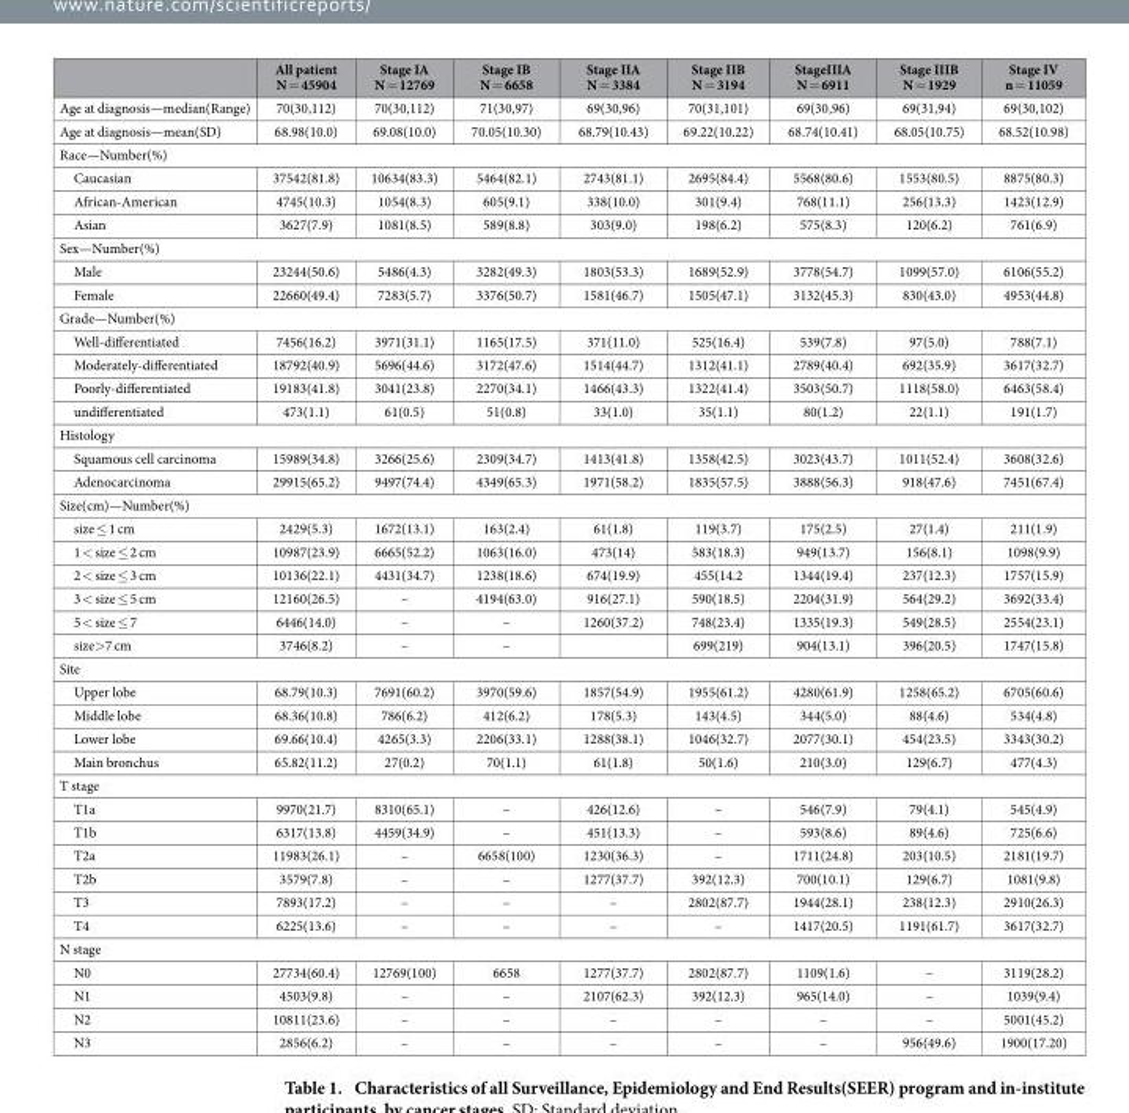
<table><thead><tr><td></td><td>All patient N = 45904</td><td>Stage IA N = 12769</td><td>Stage IB N = 6658</td><td>Stage IIA N = 3384</td><td>Stage IIB N = 3194</td><td>StageIIIA N = 6911</td><td>Stage IIIB N = 1929</td><td>Stage IV n = 11059</td></tr></thead><tbody><tr><td>Age at diagnosis—median(Range)</td><td>70(30,112)</td><td>70(30,112)</td><td>71(30,97)</td><td>69(30,96)</td><td>70(31,101)</td><td>69(30,96)</td><td>69(31,94)</td><td>69(30,102)</td></tr><tr><td>Age at diagnosis—mean(SD)</td><td>68.98(10.0)</td><td>69.08(10.0)</td><td>70.05(10.30)</td><td>68.79(10.43)</td><td>69.22(10.22)</td><td>68.74(10.41)</td><td>68.05(10.75)</td><td>68.52(10.98)</td></tr><tr><td colspan="9">Race—Number(%)</td></tr><tr><td>Caucasian</td><td>37542(81.8)</td><td>10634(83.3)</td><td>5464(82.1)</td><td>2743(81.1)</td><td>2695(84.4)</td><td>5568(80.6)</td><td>1553(80.5)</td><td>8875(80.3)</td></tr><tr><td>African-American</td><td>4745(10.3)</td><td>1054(8.3)</td><td>605(9.1)</td><td>338(10.0)</td><td>301(9.4)</td><td>768(11.1)</td><td>256(13.3)</td><td>1423(12.9)</td></tr><tr><td>Asian</td><td>3627(7.9)</td><td>1081(8.5)</td><td>589(8.8)</td><td>303(9.0)</td><td>198(6.2)</td><td>575(8.3)</td><td>120(6.2)</td><td>761(6.9)</td></tr><tr><td colspan="9">Sex—Number(%)</td></tr><tr><td>Male</td><td>23244(50.6)</td><td>5486(4.3)</td><td>3282(49.3)</td><td>1803(53.3)</td><td>1689(52.9)</td><td>3778(54.7)</td><td>1099(57.0)</td><td>6106(55.2)</td></tr><tr><td>Female</td><td>22660(49.4)</td><td>7283(5.7)</td><td>3376(50.7)</td><td>1581(46.7)</td><td>1505(47.1)</td><td>3132(45.3)</td><td>830(43.0)</td><td>4953(44.8)</td></tr><tr><td colspan="9">Grade—Number(%)</td></tr><tr><td>Well-differentiated</td><td>7456(16.2)</td><td>3971(31.1)</td><td>1165(17.5)</td><td>371(11.0)</td><td>525(16.4)</td><td>539(7.8)</td><td>97(5.0)</td><td>788(7.1)</td></tr><tr><td>Moderately-differentiated</td><td>18792(40.9)</td><td>5696(44.6)</td><td>3172(47.6)</td><td>1514(44.7)</td><td>1312(41.1)</td><td>2789(40.4)</td><td>692(35.9)</td><td>3617(32.7)</td></tr><tr><td>Poorly-differentiated</td><td>19183(41.8)</td><td>3041(23.8)</td><td>2270(34.1)</td><td>1466(43.3)</td><td>1322(41.4)</td><td>3503(50.7)</td><td>1118(58.0)</td><td>6463(58.4)</td></tr><tr><td>undifferentiated</td><td>473(1.1)</td><td>61(0.5)</td><td>51(0.8)</td><td>33(1.0)</td><td>35(1.1)</td><td>80(1.2)</td><td>22(1.1)</td><td>191(1.7)</td></tr><tr><td colspan="9">Histology</td></tr><tr><td>Squamous cell carcinoma</td><td>15989(34.8)</td><td>3266(25.6)</td><td>2309(34.7)</td><td>1413(41.8)</td><td>1358(42.5)</td><td>3023(43.7)</td><td>1011(52.4)</td><td>3608(32.6)</td></tr><tr><td>Adenocarcinoma</td><td>29915(65.2)</td><td>9497(74.4)</td><td>4349(65.3)</td><td>1971(58.2)</td><td>1835(57.5)</td><td>3888(56.3)</td><td>918(47.6)</td><td>7451(67.4)</td></tr><tr><td colspan="9">Size(cm)—Number(%)</td></tr><tr><td>size ≤ 1 cm</td><td>2429(5.3)</td><td>1672(13.1)</td><td>163(2.4)</td><td>61(1.8)</td><td>119(3.7)</td><td>175(2.5)</td><td>27(1.4)</td><td>211(1.9)</td></tr><tr><td>1 &lt; size ≤ 2 cm</td><td>10987(23.9)</td><td>6665(52.2)</td><td>1063(16.0)</td><td>473(14)</td><td>583(18.3)</td><td>949(13.7)</td><td>156(8.1)</td><td>1098(9.9)</td></tr><tr><td>2 &lt; size ≤ 3 cm</td><td>10136(22.1)</td><td>4431(34.7)</td><td>1238(18.6)</td><td>674(19.9)</td><td>455(14.2</td><td>1344(19.4)</td><td>237(12.3)</td><td>1757(15.9)</td></tr><tr><td>3 &lt; size ≤ 5 cm</td><td>12160(26.5)</td><td>–</td><td>4194(63.0)</td><td>916(27.1)</td><td>590(18.5)</td><td>2204(31.9)</td><td>564(29.2)</td><td>3692(33.4)</td></tr><tr><td>5 &lt; size ≤ 7</td><td>6446(14.0)</td><td>–</td><td>–</td><td>1260(37.2)</td><td>748(23.4)</td><td>1335(19.3)</td><td>549(28.5)</td><td>2554(23.1)</td></tr><tr><td>size&gt; 7 cm</td><td>3746(8.2)</td><td>–</td><td>–</td><td></td><td>699(219)</td><td>904(13.1)</td><td>396(20.5)</td><td>1747(15.8)</td></tr><tr><td colspan="9">Site</td></tr><tr><td>Upper lobe</td><td>68.79(10.3)</td><td>7691(60.2)</td><td>3970(59.6)</td><td>1857(54.9)</td><td>1955(61.2)</td><td>4280(61.9)</td><td>1258(65.2)</td><td>6705(60.6)</td></tr><tr><td>Middle lobe</td><td>68.36(10.8)</td><td>786(6.2)</td><td>412(6.2)</td><td>178(5.3)</td><td>143(4.5)</td><td>344(5.0)</td><td>88(4.6)</td><td>534(4.8)</td></tr><tr><td>Lower lobe</td><td>69.66(10.4)</td><td>4265(3.3)</td><td>2206(33.1)</td><td>1288(38.1)</td><td>1046(32.7)</td><td>2077(30.1)</td><td>454(23.5)</td><td>3343(30.2)</td></tr><tr><td>Main bronchus</td><td>65.82(11.2)</td><td>27(0.2)</td><td>70(1.1)</td><td>61(1.8)</td><td>50(1.6)</td><td>210(3.0)</td><td>129(6.7)</td><td>477(4.3)</td></tr><tr><td colspan="9">T stage</td></tr><tr><td>T1a</td><td>9970(21.7)</td><td>8310(65.1)</td><td>–</td><td>426(12.6)</td><td>–</td><td>546(7.9)</td><td>79(4.1)</td><td>545(4.9)</td></tr><tr><td>T1b</td><td>6317(13.8)</td><td>4459(34.9)</td><td>–</td><td>451(13.3)</td><td>–</td><td>593(8.6)</td><td>89(4.6)</td><td>725(6.6)</td></tr><tr><td>T2a</td><td>11983(26.1)</td><td>–</td><td>6658(100)</td><td>1230(36.3)</td><td>–</td><td>1711(24.8)</td><td>203(10.5)</td><td>2181(19.7)</td></tr><tr><td>T2b</td><td>3579(7.8)</td><td>–</td><td>–</td><td>1277(37.7)</td><td>392(12.3)</td><td>700(10.1)</td><td>129(6.7)</td><td>1081(9.8)</td></tr><tr><td>T3</td><td>7893(17.2)</td><td>–</td><td>–</td><td>–</td><td>2802(87.7)</td><td>1944(28.1)</td><td>238(12.3)</td><td>2910(26.3)</td></tr><tr><td>T4</td><td>6225(13.6)</td><td>–</td><td>–</td><td>–</td><td>–</td><td>1417(20.5)</td><td>1191(61.7)</td><td>3617(32.7)</td></tr><tr><td colspan="9">N stage</td></tr><tr><td>N0</td><td>27734(60.4)</td><td>12769(100)</td><td>6658</td><td>1277(37.7)</td><td>2802(87.7)</td><td>1109(1.6)</td><td>–</td><td>3119(28.2)</td></tr><tr><td>N1</td><td>4503(9.8)</td><td>–</td><td>–</td><td>2107(62.3)</td><td>392(12.3)</td><td>965(14.0)</td><td>–</td><td>1039(9.4)</td></tr><tr><td>N2</td><td>10811(23.6)</td><td>–</td><td>–</td><td>–</td><td>–</td><td>–</td><td>–</td><td>5001(45.2)</td></tr><tr><td>N3</td><td>2856(6.2)</td><td>–</td><td>–</td><td>–</td><td>–</td><td>–</td><td>956(49.6)</td><td>1900(17.20)</td></tr></tbody></table>